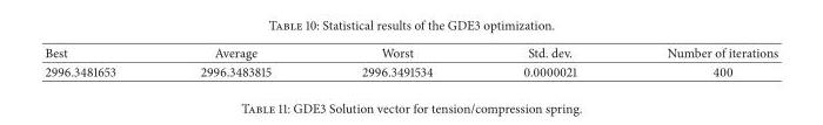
<table><thead><tr><td>Best</td><td>Average</td><td>Worst</td><td>Std. dev.</td><td>Number of iterations</td></tr></thead><tbody><tr><td>2996.3481653</td><td>2996.3483815</td><td>2996.3491534</td><td>0.0000021</td><td>400</td></tr></tbody></table>